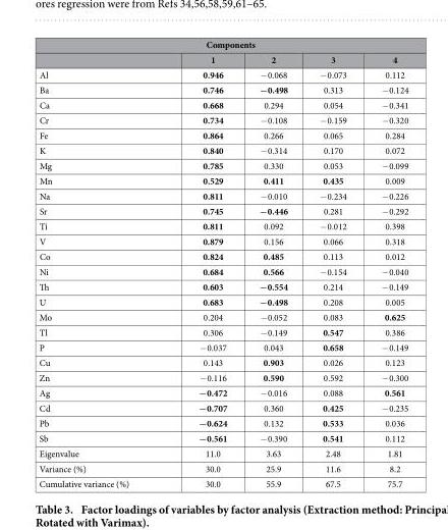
<table><thead><tr><td colspan="5">Components</td></tr><tr><td></td><td>1</td><td>2</td><td>3</td><td>4</td></tr></thead><tbody><tr><td>Al</td><td>0.946</td><td>− 0.068</td><td>− 0.073</td><td>0.112</td></tr><tr><td>Ba</td><td>0.746</td><td>−0.498</td><td>0.313</td><td>− 0.124</td></tr><tr><td>Ca</td><td>0.668</td><td>0.294</td><td>0.054</td><td>− 0.341</td></tr><tr><td>Cr</td><td>0.734</td><td>− 0.108</td><td>− 0.159</td><td>− 0.320</td></tr><tr><td>Fe</td><td>0.864</td><td>0.266</td><td>0.065</td><td>0.284</td></tr><tr><td>K</td><td>0.840</td><td>− 0.314</td><td>0.170</td><td>0.072</td></tr><tr><td>Mg</td><td>0.785</td><td>0.330</td><td>0.053</td><td>− 0.099</td></tr><tr><td>Mn</td><td>0.529</td><td>0.411</td><td>0.435</td><td>0.009</td></tr><tr><td>Na</td><td>0.811</td><td>− 0.010</td><td>− 0.234</td><td>− 0.226</td></tr><tr><td>Sr</td><td>0.745</td><td>−0.446</td><td>0.281</td><td>− 0.292</td></tr><tr><td>Ti</td><td>0.811</td><td>0.092</td><td>− 0.012</td><td>0.398</td></tr><tr><td>V</td><td>0.879</td><td>0.156</td><td>0.066</td><td>0.318</td></tr><tr><td>Co</td><td>0.824</td><td>0.485</td><td>0.113</td><td>0.012</td></tr><tr><td>Ni</td><td>0.684</td><td>0.566</td><td>− 0.154</td><td>− 0.040</td></tr><tr><td>Th</td><td>0.603</td><td>−0.554</td><td>0.214</td><td>− 0.149</td></tr><tr><td>U</td><td>0.683</td><td>−0.498</td><td>0.208</td><td>0.005</td></tr><tr><td>Mo</td><td>0.204</td><td>− 0.052</td><td>0.083</td><td>0.625</td></tr><tr><td>Tl</td><td>0.306</td><td>− 0.149</td><td>0.547</td><td>0.386</td></tr><tr><td>P</td><td>− 0.037</td><td>0.043</td><td>0.658</td><td>− 0.149</td></tr><tr><td>Cu</td><td>0.143</td><td>0.903</td><td>0.026</td><td>0.123</td></tr><tr><td>Zn</td><td>− 0.116</td><td>0.590</td><td>0.592</td><td>− 0.300</td></tr><tr><td>Ag</td><td>−0.472</td><td>− 0.016</td><td>0.088</td><td>0.561</td></tr><tr><td>Cd</td><td>−0.707</td><td>0.360</td><td>0.425</td><td>− 0.235</td></tr><tr><td>Pb</td><td>−0.624</td><td>0.132</td><td>0.533</td><td>0.036</td></tr><tr><td>Sb</td><td>−0.561</td><td>− 0.390</td><td>0.541</td><td>0.112</td></tr><tr><td>Eigenvalue</td><td>11.0</td><td>3.63</td><td>2.48</td><td>1.81</td></tr><tr><td>Variance (%)</td><td>30.0</td><td>25.9</td><td>11.6</td><td>8.2</td></tr><tr><td>Cumulative variance (%)</td><td>30.0</td><td>55.9</td><td>67.5</td><td>75.7</td></tr></tbody></table>